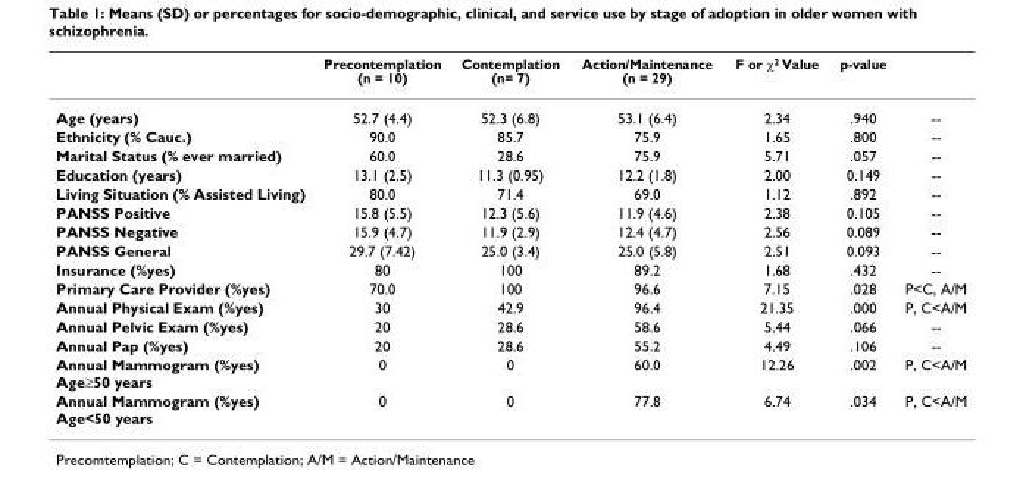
<table><thead><tr><td></td><td>Precontemplation (n = 10)</td><td>Contemplation (n= 7)</td><td>Action/Maintenance (n = 29)</td><td>F or χ<sup>2</sup> Value</td><td>p-value</td><td></td></tr></thead><tbody><tr><td>Age (years)</td><td>52.7 (4.4)</td><td>52.3 (6.8)</td><td>53.1 (6.4)</td><td>2.34</td><td>.940</td><td>--</td></tr><tr><td>Ethnicity (% Cauc.)</td><td>90.0</td><td>85.7</td><td>75.9</td><td>1.65</td><td>.800</td><td>--</td></tr><tr><td>Marital Status (% ever married)</td><td>60.0</td><td>28.6</td><td>75.9</td><td>5.71</td><td>.057</td><td>--</td></tr><tr><td>Education (years)</td><td>13.1 (2.5)</td><td>11.3 (0.95)</td><td>12.2 (1.8)</td><td>2.00</td><td>0.149</td><td>--</td></tr><tr><td>Living Situation (% Assisted Living)</td><td>80.0</td><td>71.4</td><td>69.0</td><td>1.12</td><td>.892</td><td>--</td></tr><tr><td>PANSS Positive</td><td>15.8 (5.5)</td><td>12.3 (5.6)</td><td>11.9 (4.6)</td><td>2.38</td><td>0.105</td><td>--</td></tr><tr><td>PANSS Negative</td><td>15.9 (4.7)</td><td>11.9 (2.9)</td><td>12.4 (4.7)</td><td>2.56</td><td>0.089</td><td>--</td></tr><tr><td>PANSS General</td><td>29.7 (7.42)</td><td>25.0 (3.4)</td><td>25.0 (5.8)</td><td>2.51</td><td>0.093</td><td>--</td></tr><tr><td>Insurance (%yes)</td><td>80</td><td>100</td><td>89.2</td><td>1.68</td><td>.432</td><td>--</td></tr><tr><td>Primary Care Provider (%yes)</td><td>70.0</td><td>100</td><td>96.6</td><td>7.15</td><td>.028</td><td>P&lt;C, A/M</td></tr><tr><td>Annual Physical Exam (%yes)</td><td>30</td><td>42.9</td><td>96.4</td><td>21.35</td><td>.000</td><td>P, C&lt;A/M</td></tr><tr><td>Annual Pelvic Exam (%yes)</td><td>20</td><td>28.6</td><td>58.6</td><td>5.44</td><td>.066</td><td>--</td></tr><tr><td>Annual Pap (%yes)</td><td>20</td><td>28.6</td><td>55.2</td><td>4.49</td><td>.106</td><td>--</td></tr><tr><td>Annual Mammogram (%yes) Age≥50 years</td><td>0</td><td>0</td><td>60.0</td><td>12.26</td><td>.002</td><td>P, C&lt;A/M</td></tr><tr><td>Annual Mammogram (%yes) Age&lt;50 years</td><td>0</td><td>0</td><td>77.8</td><td>6.74</td><td>.034</td><td>P, C&lt;A/M</td></tr></tbody></table>